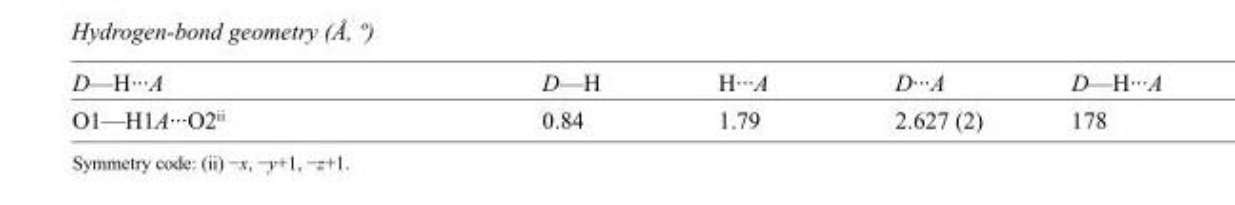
<table><tbody><tr><td>D—H···A</td><td>D—H</td><td>H···A</td><td>D···A</td><td>D—H···A</td></tr><tr><td>O1—H1A···O2<sup>ii</sup></td><td>0.84</td><td>1.79</td><td>2.627 (2)</td><td>178</td></tr></tbody></table>